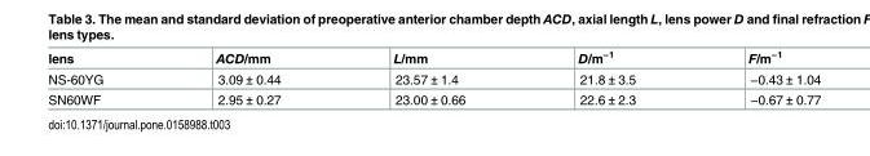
<table><thead><tr><td>lens</td><td>ACD/mm</td><td>L/mm</td><td>D/m<sup>−1</sup></td><td>F/m<sup>−1</sup></td></tr></thead><tbody><tr><td>NS-60YG</td><td>3.09 ± 0.44</td><td>23.57 ± 1.4</td><td>21.8 ± 3.5</td><td>−0.43 ± 1.04</td></tr><tr><td>SN60WF</td><td>2.95 ± 0.27</td><td>23.00 ± 0.66</td><td>22.6 ± 2.3</td><td>−0.67 ± 0.77</td></tr></tbody></table>